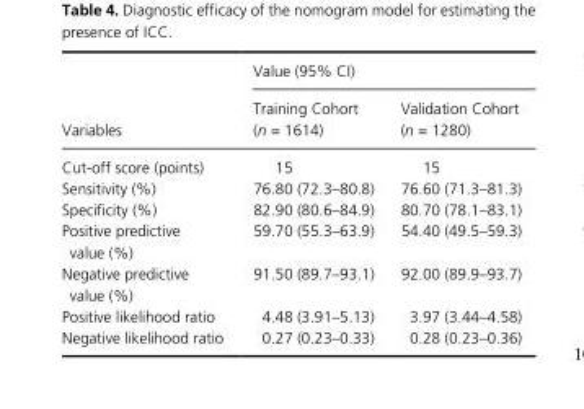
<table><thead><tr><td rowspan="2">Variables</td><td colspan="2">Value (95% CI)</td></tr><tr><td>Training Cohort (n = 1614)</td><td>Validation Cohort (n = 1280)</td></tr></thead><tbody><tr><td>Cut- off score (points)</td><td>15</td><td>15</td></tr><tr><td>Sensitivity (%)</td><td>76.80 (72.3–80.8)</td><td>76.60 (71.3–81.3)</td></tr><tr><td>Specificity (%)</td><td>82.90 (80.6–84.9)</td><td>80.70 (78.1–83.1)</td></tr><tr><td>Positive predictive value (%)</td><td>59.70 (55.3–63.9)</td><td>54.40 (49.5–59.3)</td></tr><tr><td>Negative predictive value (%)</td><td>91.50 (89.7–93.1)</td><td>92.00 (89.9–93.7)</td></tr><tr><td>Positive likelihood ratio</td><td>4.48 (3.91–5.13)</td><td>3.97 (3.44–4.58)</td></tr><tr><td>Negative likelihood ratio</td><td>0.27 (0.23–0.33)</td><td>0.28 (0.23–0.36)</td></tr></tbody></table>